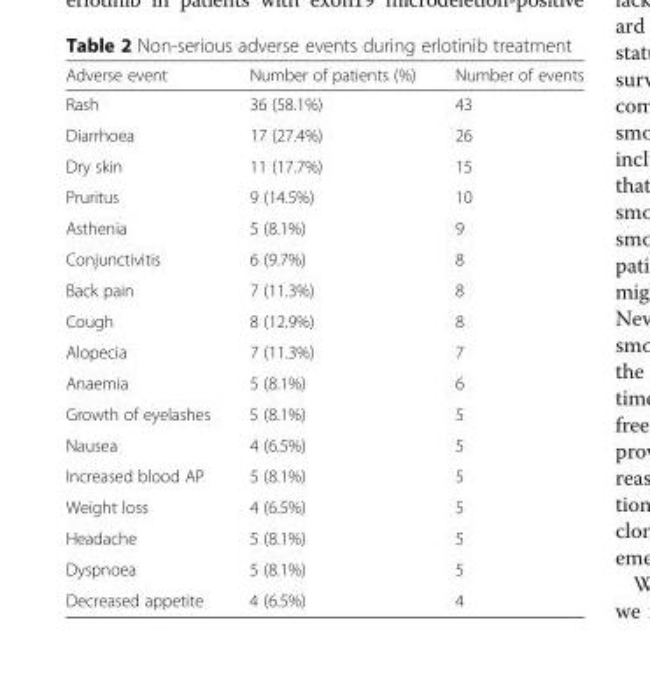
<table><thead><tr><td>Adverse event</td><td>Number of patients (%)</td><td>Number of events</td></tr></thead><tbody><tr><td>Rash</td><td>36 (58.1%)</td><td>43</td></tr><tr><td>Diarrhoea</td><td>17 (27.4%)</td><td>26</td></tr><tr><td>Dry skin</td><td>11 (17.7%)</td><td>15</td></tr><tr><td>Pruritus</td><td>9 (14.5%)</td><td>10</td></tr><tr><td>Asthenia</td><td>5 (8.1%)</td><td>9</td></tr><tr><td>Conjunctivitis</td><td>6 (9.7%)</td><td>8</td></tr><tr><td>Back pain</td><td>7 (11.3%)</td><td>8</td></tr><tr><td>Cough</td><td>8 (12.9%)</td><td>8</td></tr><tr><td>Alopecia</td><td>7 (11.3%)</td><td>7</td></tr><tr><td>Anaemia</td><td>5 (8.1%)</td><td>6</td></tr><tr><td>Growth of eyelashes</td><td>5 (8.1%)</td><td>5</td></tr><tr><td>Nausea</td><td>4 (6.5%)</td><td>5</td></tr><tr><td>Increased blood AP</td><td>5 (8.1%)</td><td>5</td></tr><tr><td>Weight loss</td><td>4 (6.5%)</td><td>5</td></tr><tr><td>Headache</td><td>5 (8.1%)</td><td>5</td></tr><tr><td>Dyspnoea</td><td>5 (8.1%)</td><td>5</td></tr><tr><td>Decreased appetite</td><td>4 (6.5%)</td><td>4</td></tr></tbody></table>